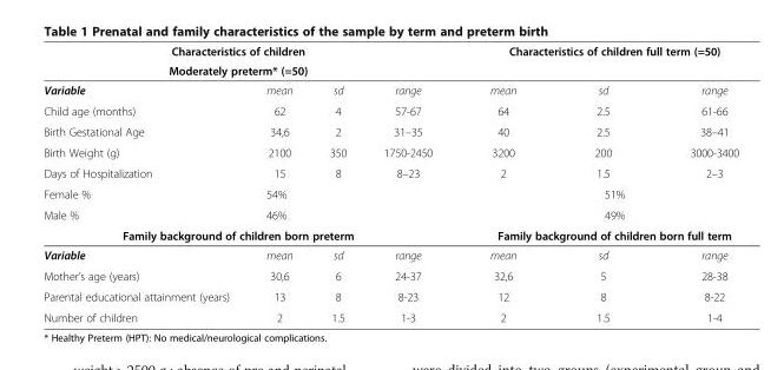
<table><thead><tr><td rowspan="2" colspan="4">Characteristics of children Moderately preterm* (=50)</td><td rowspan="2" colspan="3">Characteristics of children full term (=50)</td></tr><tr></tr><tr><td>Variable</td><td>mean</td><td>sd</td><td>range</td><td>mean</td><td>sd</td><td>range</td></tr></thead><tbody><tr><td>Child age (months)</td><td>62</td><td>4</td><td>57-67</td><td>64</td><td>2.5</td><td>61-66</td></tr><tr><td>Birth Gestational Age</td><td>34,6</td><td>2</td><td>31–35</td><td>40</td><td>2.5</td><td>38–41</td></tr><tr><td>Birth Weight (g)</td><td>2100</td><td>350</td><td>1750-2450</td><td>3200</td><td>200</td><td>3000-3400</td></tr><tr><td>Days of Hospitalization</td><td>15</td><td>8</td><td>8–23</td><td>2</td><td>1.5</td><td>2–3</td></tr><tr><td>Female %</td><td>54%</td><td></td><td></td><td></td><td>51%</td><td></td></tr><tr><td>Male %</td><td>46%</td><td></td><td></td><td></td><td>49%</td><td></td></tr><tr><td colspan="4">Family background of children born preterm</td><td colspan="3">Family background of children born full term</td></tr><tr><td>Variable</td><td>mean</td><td>sd</td><td>range</td><td>mean</td><td>sd</td><td>range</td></tr><tr><td>Mother’s age (years)</td><td>30,6</td><td>6</td><td>24-37</td><td>32,6</td><td>5</td><td>28-38</td></tr><tr><td>Parental educational attainment (years)</td><td>13</td><td>8</td><td>8-23</td><td>12</td><td>8</td><td>8-22</td></tr><tr><td>Number of children</td><td>2</td><td>1.5</td><td>1-3</td><td>2</td><td>1.5</td><td>1-4</td></tr></tbody></table>